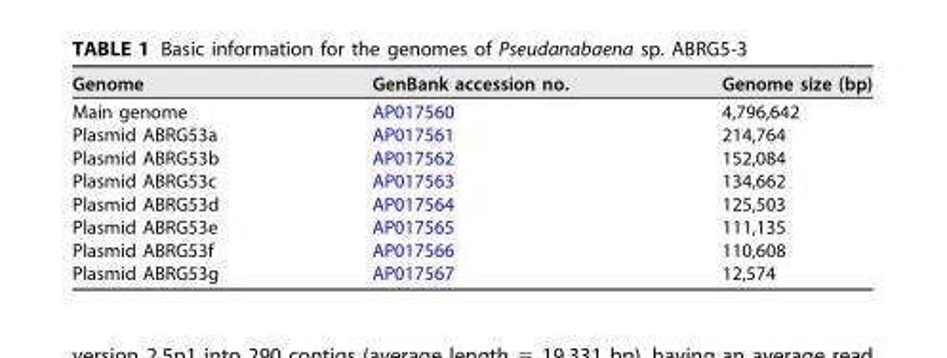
<table><thead><tr><td>Genome</td><td>GenBank accession no.</td><td>Genome size (bp)</td></tr></thead><tbody><tr><td>Main genome</td><td>AP017560</td><td>4,796,642</td></tr><tr><td>Plasmid ABRG53a</td><td>AP017561</td><td>214,764</td></tr><tr><td>Plasmid ABRG53b</td><td>AP017562</td><td>152,084</td></tr><tr><td>Plasmid ABRG53c</td><td>AP017563</td><td>134,662</td></tr><tr><td>Plasmid ABRG53d</td><td>AP017564</td><td>125,503</td></tr><tr><td>Plasmid ABRG53e</td><td>AP017565</td><td>111,135</td></tr><tr><td>Plasmid ABRG53f</td><td>AP017566</td><td>110,608</td></tr><tr><td>Plasmid ABRG53g</td><td>AP017567</td><td>12,574</td></tr></tbody></table>